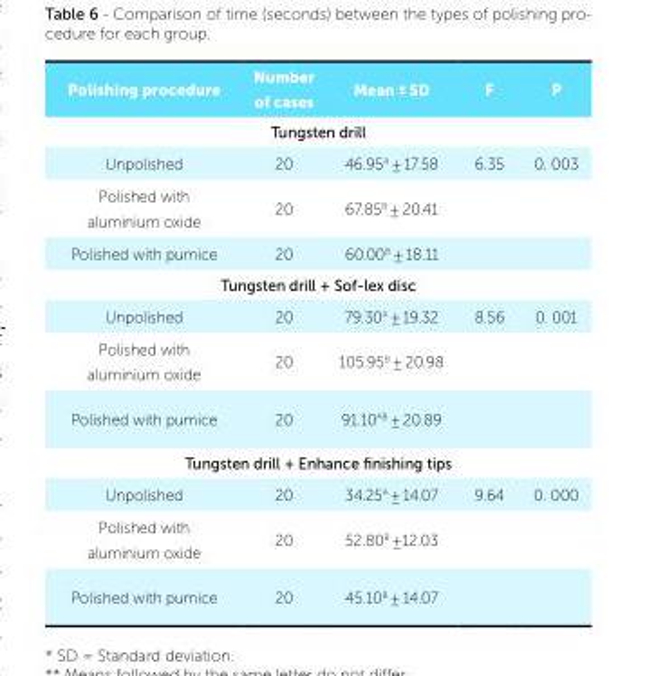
<table><thead><tr><td>Polishing procedure</td><td>Number of cases</td><td>Mean ± SD</td><td>F</td><td>P</td></tr></thead><tbody><tr><td colspan="5">Tungsten drill</td></tr><tr><td>Unpolished</td><td>20</td><td>46.95<sup>A</sup> ± 17.58</td><td>6.35</td><td>0. 003</td></tr><tr><td>Polished with aluminium oxide</td><td>20</td><td>67.85<sup>B</sup> ± 20.41</td><td></td><td></td></tr><tr><td>Polished with pumice</td><td>20</td><td>60.00<sup>B</sup> ± 18.11</td><td></td><td></td></tr><tr><td colspan="5">Tungsten drill + Sof-lex disc</td></tr><tr><td>Unpolished</td><td>20</td><td>79.30<sup>A</sup> ± 19.32</td><td>8.56</td><td>0. 001</td></tr><tr><td>Polished with aluminium oxide</td><td>20</td><td>105.95<sup>B</sup> ± 20.98</td><td></td><td></td></tr><tr><td>Polished with pumice</td><td>20</td><td>91.10<sup>AB</sup> ± 20.89</td><td></td><td></td></tr><tr><td colspan="5">Tungsten drill + Enhance finishing tips</td></tr><tr><td>Unpolished</td><td>20</td><td>34.25<sup>A</sup> ± 14.07</td><td>9.64</td><td>0. 000</td></tr><tr><td>Polished with aluminium oxide</td><td>20</td><td>52.80<sup>B</sup> ±12.03</td><td></td><td></td></tr><tr><td>Polished with pumice</td><td>20</td><td>45.10<sup>B</sup> ± 14.07</td><td></td><td></td></tr></tbody></table>